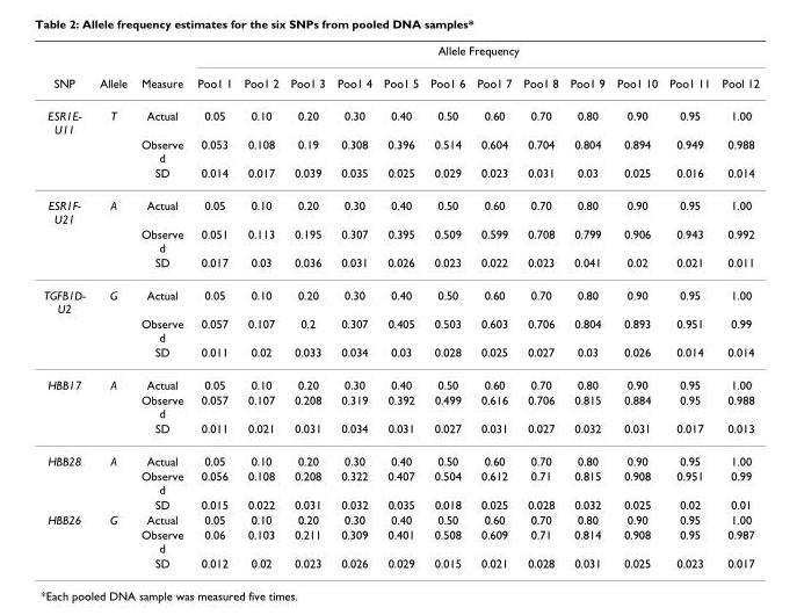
<table><thead><tr><td rowspan="2">SNP</td><td rowspan="2">Allele</td><td rowspan="2">Measure</td><td colspan="12">Allele Frequency</td></tr><tr><td>Poo1 1</td><td>Poo1 2</td><td>Poo1 3</td><td>Poo1 4</td><td>Poo1 5</td><td>Poo1 6</td><td>Poo1 7</td><td>Poo1 8</td><td>Poo1 9</td><td>Poo1 10</td><td>Poo1 11</td><td>Pool 12</td></tr></thead><tbody><tr><td rowspan="3">ESR1E- U11</td><td>T</td><td>Actual</td><td>0.05</td><td>0.10</td><td>0.20</td><td>0.30</td><td>0.40</td><td>0.50</td><td>0.60</td><td>0.70</td><td>0.80</td><td>0.90</td><td>0.95</td><td>1.00</td></tr><tr><td></td><td>Observe d</td><td>0.053</td><td>0.108</td><td>0.19</td><td>0.308</td><td>0.396</td><td>0.514</td><td>0.604</td><td>0.704</td><td>0.804</td><td>0.894</td><td>0.949</td><td>0.988</td></tr><tr><td></td><td>SD</td><td>0.014</td><td>0.017</td><td>0.039</td><td>0.035</td><td>0.025</td><td>0.029</td><td>0.023</td><td>0.031</td><td>0.03</td><td>0.025</td><td>0.016</td><td>0.014</td></tr><tr><td rowspan="3">ESR1F- U21</td><td>A</td><td>Actual</td><td>0.05</td><td>0.10</td><td>0.20</td><td>0.30</td><td>0.40</td><td>0.50</td><td>0.60</td><td>0.70</td><td>0.80</td><td>0.90</td><td>0.95</td><td>1.00</td></tr><tr><td></td><td>Observe d</td><td>0.051</td><td>0.113</td><td>0.195</td><td>0.307</td><td>0.395</td><td>0.509</td><td>0.599</td><td>0.708</td><td>0.799</td><td>0.906</td><td>0.943</td><td>0.992</td></tr><tr><td></td><td>SD</td><td>0.017</td><td>0.03</td><td>0.036</td><td>0.031</td><td>0.026</td><td>0.023</td><td>0.022</td><td>0.023</td><td>0.041</td><td>0.02</td><td>0.021</td><td>0.011</td></tr><tr><td rowspan="3">TGFB1D- U2</td><td>G</td><td>Actual</td><td>0.05</td><td>0.10</td><td>0.20</td><td>0.30</td><td>0.40</td><td>0.50</td><td>0.60</td><td>0.70</td><td>0.80</td><td>0.90</td><td>0.95</td><td>1.00</td></tr><tr><td></td><td>Observe d</td><td>0.057</td><td>0.107</td><td>0.2</td><td>0.307</td><td>0.405</td><td>0.503</td><td>0.603</td><td>0.706</td><td>0.804</td><td>0.893</td><td>0.951</td><td>0.99</td></tr><tr><td></td><td>SD</td><td>0.011</td><td>0.02</td><td>0.033</td><td>0.034</td><td>0.03</td><td>0.028</td><td>0.025</td><td>0.027</td><td>0.03</td><td>0.026</td><td>0.014</td><td>0.014</td></tr><tr><td rowspan="3">HBB17</td><td>A</td><td>Actual</td><td>0.05</td><td>0.10</td><td>0.20</td><td>0.30</td><td>0.40</td><td>0.50</td><td>0.60</td><td>0.70</td><td>0.80</td><td>0.90</td><td>0.95</td><td>1.00</td></tr><tr><td></td><td>Observe d</td><td>0.057</td><td>0.107</td><td>0.208</td><td>0.319</td><td>0.392</td><td>0.499</td><td>0.616</td><td>0.706</td><td>0.815</td><td>0.884</td><td>0.95</td><td>0.988</td></tr><tr><td></td><td>SD</td><td>0.011</td><td>0.021</td><td>0.031</td><td>0.034</td><td>0.031</td><td>0.027</td><td>0.031</td><td>0.027</td><td>0.032</td><td>0.031</td><td>0.017</td><td>0.013</td></tr><tr><td rowspan="3">HBB28</td><td>A</td><td>Actual</td><td>0.05</td><td>0.10</td><td>0.20</td><td>0.30</td><td>0.40</td><td>0.50</td><td>0.60</td><td>0.70</td><td>0.80</td><td>0.90</td><td>0.95</td><td>1.00</td></tr><tr><td></td><td>Observe d</td><td>0.056</td><td>0.108</td><td>0.208</td><td>0.322</td><td>0.407</td><td>0.504</td><td>0.612</td><td>0.71</td><td>0.815</td><td>0.908</td><td>0.951</td><td>0.99</td></tr><tr><td></td><td>SD</td><td>0.015</td><td>0.022</td><td>0.031</td><td>0.032</td><td>0.035</td><td>0.018</td><td>0.025</td><td>0.028</td><td>0.032</td><td>0.025</td><td>0.02</td><td>0.01</td></tr><tr><td rowspan="3">HBB26</td><td>G</td><td>Actual</td><td>0.05</td><td>0.10</td><td>0.20</td><td>0.30</td><td>0.40</td><td>0.50</td><td>0.60</td><td>0.70</td><td>0.80</td><td>0.90</td><td>0.95</td><td>1.00</td></tr><tr><td></td><td>Observe d</td><td>0.06</td><td>0.103</td><td>0.211</td><td>0.309</td><td>0.401</td><td>0.508</td><td>0.609</td><td>0.71</td><td>0.814</td><td>0.908</td><td>0.95</td><td>0.987</td></tr><tr><td></td><td>SD</td><td>0.012</td><td>0.02</td><td>0.023</td><td>0.026</td><td>0.029</td><td>0.015</td><td>0.021</td><td>0.028</td><td>0.031</td><td>0.025</td><td>0.023</td><td>0.017</td></tr></tbody></table>